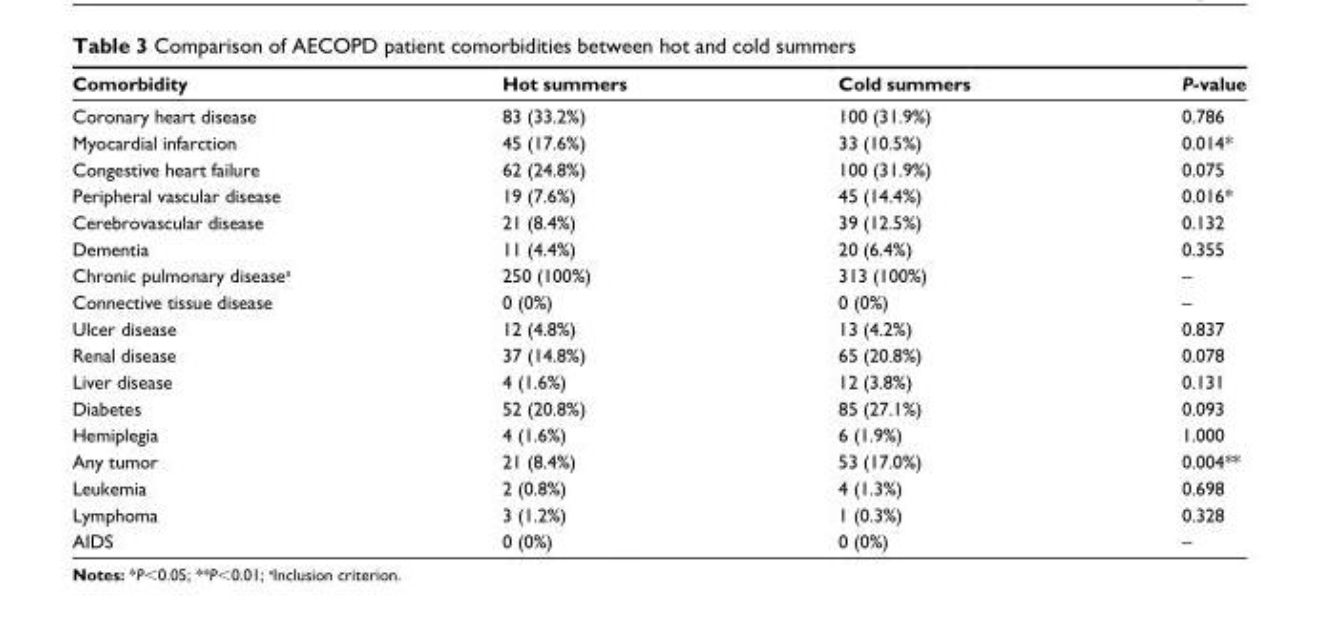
<table><thead><tr><td>Comorbidity</td><td>Hot summers</td><td>Cold summers</td><td>P-value</td></tr></thead><tbody><tr><td>Coronary heart disease</td><td>83 (33.2%)</td><td>100 (31.9%)</td><td>0.786</td></tr><tr><td>Myocardial infarction</td><td>45 (17.6%)</td><td>33 (10.5%)</td><td>0.014*</td></tr><tr><td>Congestive heart failure</td><td>62 (24.8%)</td><td>100 (31.9%)</td><td>0.075</td></tr><tr><td>Peripheral vascular disease</td><td>19 (7.6%)</td><td>45 (14.4%)</td><td>0.016*</td></tr><tr><td>Cerebrovascular disease</td><td>21 (8.4%)</td><td>39 (12.5%)</td><td>0.132</td></tr><tr><td>Dementia</td><td>11 (4.4%)</td><td>20 (6.4%)</td><td>0.355</td></tr><tr><td>Chronic pulmonary disease<sup>a</sup></td><td>250 (100%)</td><td>313 (100%)</td><td>–</td></tr><tr><td>Connective tissue disease</td><td>0 (0%)</td><td>0 (0%)</td><td>–</td></tr><tr><td>Ulcer disease</td><td>12 (4.8%)</td><td>13 (4.2%)</td><td>0.837</td></tr><tr><td>renal disease</td><td>37 (14.8%)</td><td>65 (20.8%)</td><td>0.078</td></tr><tr><td>liver disease</td><td>4 (1.6%)</td><td>12 (3.8%)</td><td>0.131</td></tr><tr><td>Diabetes</td><td>52 (20.8%)</td><td>85 (27.1%)</td><td>0.093</td></tr><tr><td>hemiplegia</td><td>4 (1.6%)</td><td>6 (1.9%)</td><td>1.000</td></tr><tr><td>any tumor</td><td>21 (8.4%)</td><td>53 (17.0%)</td><td>0.004**</td></tr><tr><td>leukemia</td><td>2 (0.8%)</td><td>4 (1.3%)</td><td>0.698</td></tr><tr><td>lymphoma</td><td>3 (1.2%)</td><td>1 (0.3%)</td><td>0.328</td></tr><tr><td>aIDs</td><td>0 (0%)</td><td>0 (0%)</td><td>–</td></tr></tbody></table>